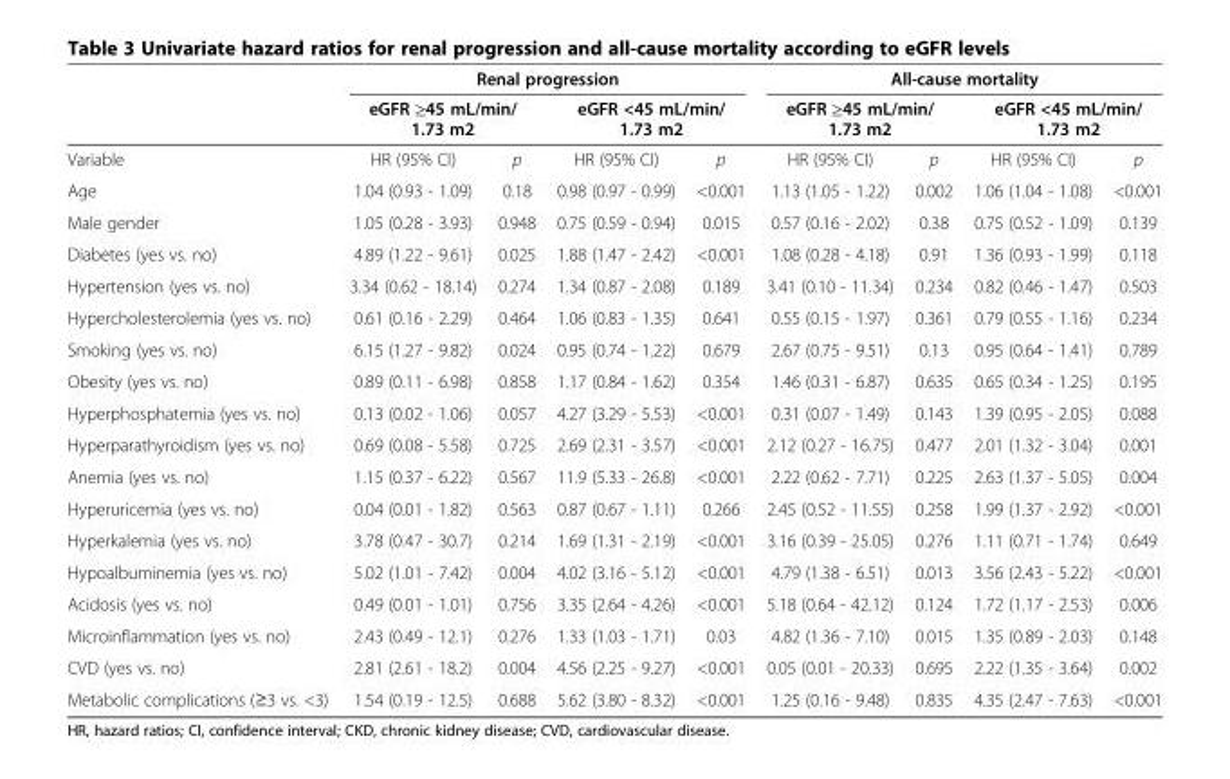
<table><thead><tr><td rowspan="3">Variable</td><td colspan="4">Renal progression</td><td colspan="4">All-cause mortality</td></tr><tr><td colspan="2">eGFR ≥45 mL/min/ 1.73 m2</td><td colspan="2">eGFR &lt;45 mL/min/ 1.73 m2</td><td colspan="2">eGFR ≥45 mL/min/ 1.73 m2</td><td colspan="2">eGFR &lt;45 mL/min/ 1.73 m2</td></tr><tr><td>HR (95% CI)</td><td>p</td><td>HR (95% CI)</td><td>p</td><td>HR (95% CI)</td><td>p</td><td>HR (95% CI)</td><td>p</td></tr></thead><tbody><tr><td>Age</td><td>1.04 (0.93 - 1.09)</td><td>0.18</td><td>0.98 (0.97 - 0.99)</td><td>&lt;0.001</td><td>1.13 (1.05 - 1.22)</td><td>0.002</td><td>1.06 (1.04 - 1.08)</td><td>&lt;0.001</td></tr><tr><td>Male gender</td><td>1.05 (0.28 - 3.93)</td><td>0.948</td><td>0.75 (0.59 - 0.94)</td><td>0.015</td><td>0.57 (0.16 - 2.02)</td><td>0.38</td><td>0.75 (0.52 - 1.09)</td><td>0.139</td></tr><tr><td>Diabetes (yes vs. no)</td><td>4.89 (1.22 - 9.61)</td><td>0.025</td><td>1.88 (1.47 - 2.42)</td><td>&lt;0.001</td><td>1.08 (0.28 - 4.18)</td><td>0.91</td><td>1.36 (0.93 - 1.99)</td><td>0.118</td></tr><tr><td>Hypertension (yes vs. no)</td><td>3.34 (0.62 - 18.14)</td><td>0.274</td><td>1.34 (0.87 - 2.08)</td><td>0.189</td><td>3.41 (0.10 - 11.34)</td><td>0.234</td><td>0.82 (0.46 - 1.47)</td><td>0.503</td></tr><tr><td>Hypercholesterolemia (yes vs. no)</td><td>0.61 (0.16 - 2.29)</td><td>0.464</td><td>1.06 (0.83 - 1.35)</td><td>0.641</td><td>0.55 (0.15 - 1.97)</td><td>0.361</td><td>0.79 (0.55 - 1.16)</td><td>0.234</td></tr><tr><td>Smoking (yes vs. no)</td><td>6.15 (1.27 - 9.82)</td><td>0.024</td><td>0.95 (0.74 - 1.22)</td><td>0.679</td><td>2.67 (0.75 - 9.51)</td><td>0.13</td><td>0.95 (0.64 - 1.41)</td><td>0.789</td></tr><tr><td>Obesity (yes vs. no)</td><td>0.89 (0.11 - 6.98)</td><td>0.858</td><td>1.17 (0.84 - 1.62)</td><td>0.354</td><td>1.46 (0.31 - 6.87)</td><td>0.635</td><td>0.65 (0.34 - 1.25)</td><td>0.195</td></tr><tr><td>Hyperphosphatemia (yes vs. no)</td><td>0.13 (0.02 - 1.06)</td><td>0.057</td><td>4.27 (3.29 - 5.53)</td><td>&lt;0.001</td><td>0.31 (0.07 - 1.49)</td><td>0.143</td><td>1.39 (0.95 - 2.05)</td><td>0.088</td></tr><tr><td>Hyperparathyroidism (yes vs. no)</td><td>0.69 (0.08 - 5.58)</td><td>0.725</td><td>2.69 (2.31 - 3.57)</td><td>&lt;0.001</td><td>2.12 (0.27 - 16.75)</td><td>0.477</td><td>2.01 (1.32 - 3.04)</td><td>0.001</td></tr><tr><td>Anemia (yes vs. no)</td><td>1.15 (0.37 - 6.22)</td><td>0.567</td><td>11.9 (5.33 - 26.8)</td><td>&lt;0.001</td><td>2.22 (0.62 - 7.71)</td><td>0.225</td><td>2.63 (1.37 - 5.05)</td><td>0.004</td></tr><tr><td>Hyperuricemia (yes vs. no)</td><td>0.04 (0.01 - 1.82)</td><td>0.563</td><td>0.87 (0.67 - 1.11)</td><td>0.266</td><td>2.45 (0.52 - 11.55)</td><td>0.258</td><td>1.99 (1.37 - 2.92)</td><td>&lt;0.001</td></tr><tr><td>Hyperkalemia (yes vs. no)</td><td>3.78 (0.47 - 30.7)</td><td>0.214</td><td>1.69 (1.31 - 2.19)</td><td>&lt;0.001</td><td>3.16 (0.39 - 25.05)</td><td>0.276</td><td>1.11 (0.71 - 1.74)</td><td>0.649</td></tr><tr><td>Hypoalbuminemia (yes vs. no)</td><td>5.02 (1.01 - 7.42)</td><td>0.004</td><td>4.02 (3.16 - 5.12)</td><td>&lt;0.001</td><td>4.79 (1.38 - 6.51)</td><td>0.013</td><td>3.56 (2.43 - 5.22)</td><td>&lt;0.001</td></tr><tr><td>Acidosis (yes vs. no)</td><td>0.49 (0.01 - 1.01)</td><td>0.756</td><td>3.35 (2.64 - 4.26)</td><td>&lt;0.001</td><td>5.18 (0.64 - 42.12)</td><td>0.124</td><td>1.72 (1.17 - 2.53)</td><td>0.006</td></tr><tr><td>Microinflammation (yes vs. no)</td><td>2.43 (0.49 - 12.1)</td><td>0.276</td><td>1.33 (1.03 - 1.71)</td><td>0.03</td><td>4.82 (1.36 - 7.10)</td><td>0.015</td><td>1.35 (0.89 - 2.03)</td><td>0.148</td></tr><tr><td>CVD (yes vs. no)</td><td>2.81 (2.61 - 18.2)</td><td>0.004</td><td>4.56 (2.25 - 9.27)</td><td>&lt;0.001</td><td>0.05 (0.01 - 20.33)</td><td>0.695</td><td>2.22 (1.35 - 3.64)</td><td>0.002</td></tr><tr><td>Metabolic complications (≥3 vs. &lt;3)</td><td>1.54 (0.19 - 12.5)</td><td>0.688</td><td>5.62 (3.80 - 8.32)</td><td>&lt;0.001</td><td>1.25 (0.16 - 9.48)</td><td>0.835</td><td>4.35 (2.47 - 7.63)</td><td>&lt;0.001</td></tr></tbody></table>